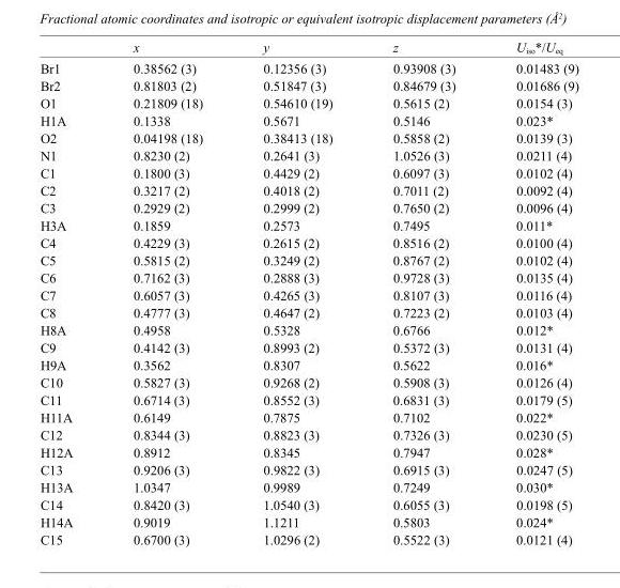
<table><thead><tr><td></td><td>x</td><td>y</td><td>z</td><td>U<sub>iso</sub>*/U<sub>eq</sub></td></tr></thead><tbody><tr><td>Br1</td><td>0.38562 (3)</td><td>0.12356 (3)</td><td>0.93908 (3)</td><td>0.01483 (9)</td></tr><tr><td>Br2</td><td>0.81803 (2)</td><td>0.51847 (3)</td><td>0.84679 (3)</td><td>0.01686 (9)</td></tr><tr><td>O1</td><td>0.21809 (18)</td><td>0.54610 (19)</td><td>0.5615 (2)</td><td>0.0154 (3)</td></tr><tr><td>H1A</td><td>0.1338</td><td>0.5671</td><td>0.5146</td><td>0.023*</td></tr><tr><td>O2</td><td>0.04198 (18)</td><td>0.38413 (18)</td><td>0.5858 (2)</td><td>0.0139 (3)</td></tr><tr><td>N1</td><td>0.8230 (2)</td><td>0.2641 (3)</td><td>1.0526 (3)</td><td>0.0211 (4)</td></tr><tr><td>C1</td><td>0.1800 (3)</td><td>0.4429 (2)</td><td>0.6097 (3)</td><td>0.0102 (4)</td></tr><tr><td>C2</td><td>0.3217 (2)</td><td>0.4018 (2)</td><td>0.7011 (2)</td><td>0.0092 (4)</td></tr><tr><td>C3</td><td>0.2929 (2)</td><td>0.2999 (2)</td><td>0.7650 (2)</td><td>0.0096 (4)</td></tr><tr><td>H3A</td><td>0.1859</td><td>0.2573</td><td>0.7495</td><td>0.011*</td></tr><tr><td>C4</td><td>0.4229 (3)</td><td>0.2615 (2)</td><td>0.8516 (2)</td><td>0.0100 (4)</td></tr><tr><td>C5</td><td>0.5815 (2)</td><td>0.3249 (2)</td><td>0.8767 (2)</td><td>0.0102 (4)</td></tr><tr><td>C6</td><td>0.7162 (3)</td><td>0.2888 (3)</td><td>0.9728 (3)</td><td>0.0135 (4)</td></tr><tr><td>C7</td><td>0.6057 (3)</td><td>0.4265 (3)</td><td>0.8107 (3)</td><td>0.0116 (4)</td></tr><tr><td>C8</td><td>0.4777 (3)</td><td>0.4647 (2)</td><td>0.7223 (2)</td><td>0.0103 (4)</td></tr><tr><td>H8A</td><td>0.4958</td><td>0.5328</td><td>0.6766</td><td>0.012*</td></tr><tr><td>C9</td><td>0.4142 (3)</td><td>0.8993 (2)</td><td>0.5372 (3)</td><td>0.0131 (4)</td></tr><tr><td>H9A</td><td>0.3562</td><td>0.8307</td><td>0.5622</td><td>0.016*</td></tr><tr><td>C10</td><td>0.5827 (3)</td><td>0.9268 (2)</td><td>0.5908 (3)</td><td>0.0126 (4)</td></tr><tr><td>C11</td><td>0.6714 (3)</td><td>0.8552 (3)</td><td>0.6831 (3)</td><td>0.0179 (5)</td></tr><tr><td>H11A</td><td>0.6149</td><td>0.7875</td><td>0.7102</td><td>0.022*</td></tr><tr><td>C12</td><td>0.8344 (3)</td><td>0.8823 (3)</td><td>0.7326 (3)</td><td>0.0230 (5)</td></tr><tr><td>H12A</td><td>0.8912</td><td>0.8345</td><td>0.7947</td><td>0.028*</td></tr><tr><td>C13</td><td>0.9206 (3)</td><td>0.9822 (3)</td><td>0.6915 (3)</td><td>0.0247 (5)</td></tr><tr><td>H13A</td><td>1.0347</td><td>0.9989</td><td>0.7249</td><td>0.030*</td></tr><tr><td>C14</td><td>0.8420 (3)</td><td>1.0540 (3)</td><td>0.6055 (3)</td><td>0.0198 (5)</td></tr><tr><td>H14A</td><td>0.9019</td><td>1.1211</td><td>0.5803</td><td>0.024*</td></tr><tr><td>C15</td><td>0.6700 (3)</td><td>1.0296 (2)</td><td>0.5522 (3)</td><td>0.0121 (4)</td></tr></tbody></table>